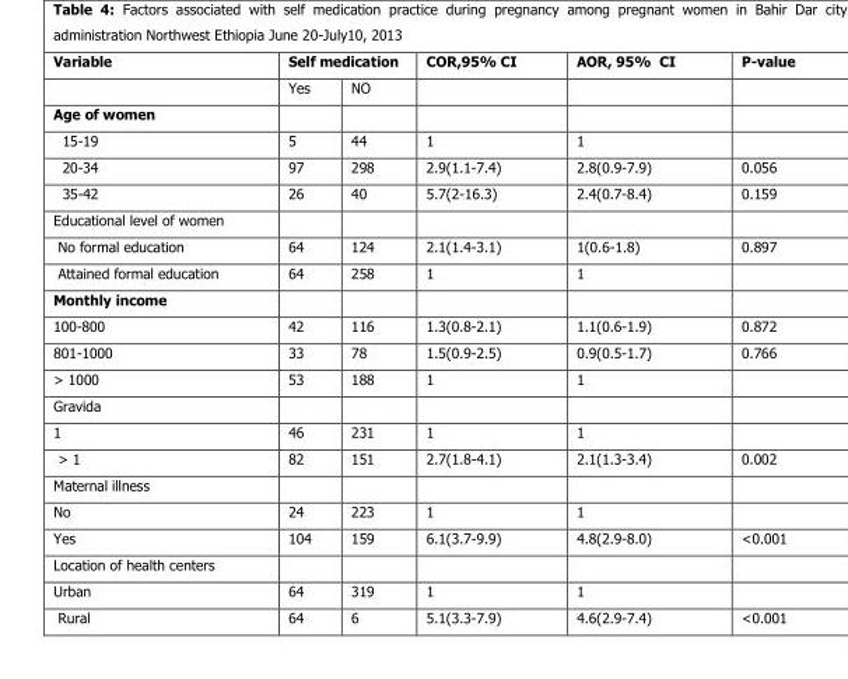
<table><thead><tr><td rowspan="2">Variable</td><td colspan="2">Self medication</td><td rowspan="2">COR,95% CI</td><td rowspan="2">AOR, 95% CI</td><td rowspan="2">P-value</td></tr><tr><td>Yes</td><td>NO</td></tr></thead><tbody><tr><td colspan="6">Age of women</td></tr><tr><td>15-19</td><td>5</td><td>44</td><td>1</td><td>1</td><td></td></tr><tr><td>20-34</td><td>97</td><td>298</td><td>2.9(1.1-7.4)</td><td>2.8(0.9-7.9)</td><td>0.056</td></tr><tr><td>35-42</td><td>26</td><td>40</td><td>5.7(2-16.3)</td><td>2.4(0.7-8.4)</td><td>0.159</td></tr><tr><td colspan="6">Educational level of women</td></tr><tr><td>No formal education</td><td>64</td><td>124</td><td>2.1(1.4-3.1)</td><td>1(0.6-1.8)</td><td>0.897</td></tr><tr><td>Attained formal education</td><td>64</td><td>258</td><td>1</td><td>1</td><td></td></tr><tr><td colspan="6">Monthly income</td></tr><tr><td>100-800</td><td>42</td><td>116</td><td>1.3(0.8-2.1)</td><td>1.1(0.6-1.9)</td><td>0.872</td></tr><tr><td>801-1000</td><td>33</td><td>78</td><td>1.5(0.9-2.5)</td><td>0.9(0.5-1.7)</td><td>0.766</td></tr><tr><td>&gt; 1000</td><td>53</td><td>188</td><td>1</td><td>1</td><td></td></tr><tr><td colspan="6">Gravida</td></tr><tr><td>1</td><td>46</td><td>231</td><td>1</td><td>1</td><td></td></tr><tr><td>&gt; 1</td><td>82</td><td>151</td><td>2.7(1.8-4.1)</td><td>2.1(1.3-3.4)</td><td>0.002</td></tr><tr><td colspan="6">Maternal illness</td></tr><tr><td>No</td><td>24</td><td>223</td><td>1</td><td>1</td><td></td></tr><tr><td>Yes</td><td>104</td><td>159</td><td>6.1(3.7-9.9)</td><td>4.8(2.9-8.0)</td><td>&lt;0.001</td></tr><tr><td colspan="6">Location of health centers</td></tr><tr><td>Urban</td><td>64</td><td>319</td><td>1</td><td>1</td><td></td></tr><tr><td>Rural</td><td>64</td><td>6</td><td>5.1(3.3-7.9)</td><td>4.6(2.9-7.4)</td><td>&lt;0.001</td></tr></tbody></table>